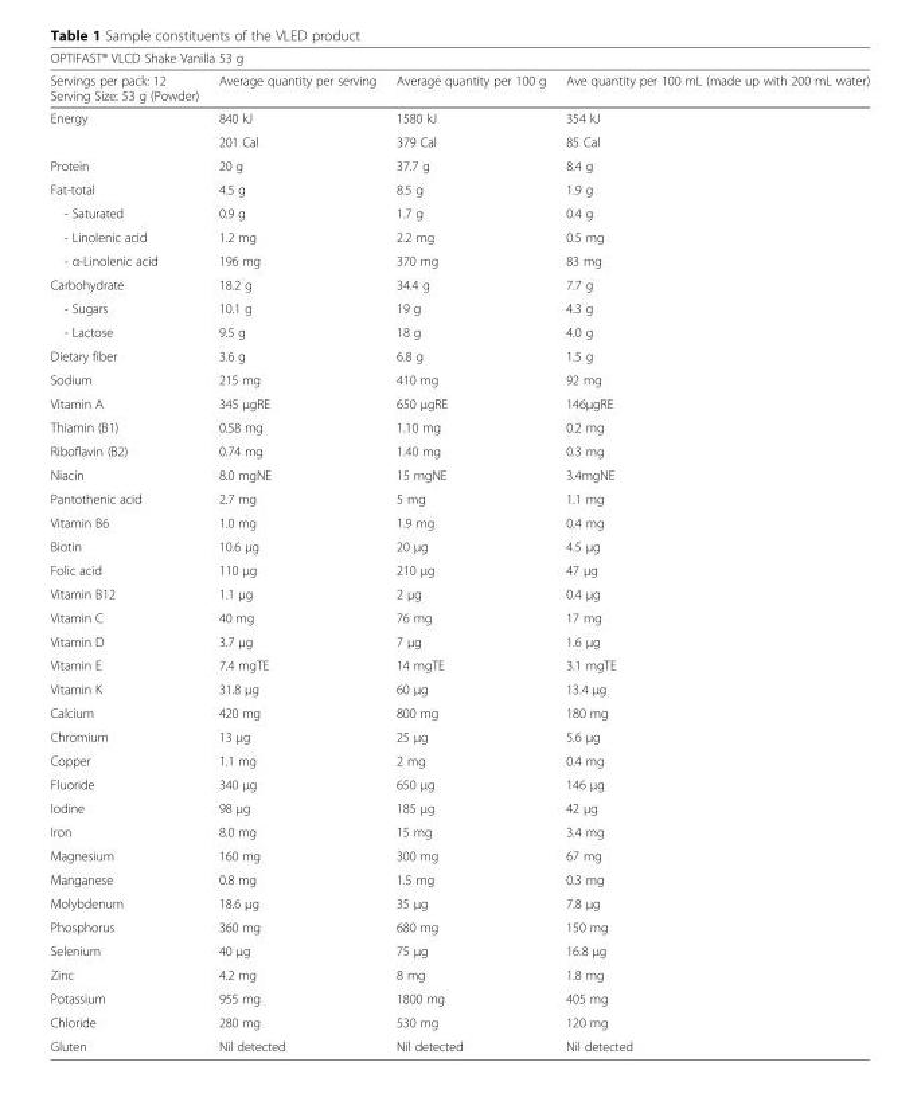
<table><thead><tr><td colspan="4">OPTIFAST® VLCD Shake Vanilla 53 g</td></tr><tr><td>Servings per pack: 12 Serving Size: 53 g (Powder)</td><td>Average quantity per serving</td><td>Average quantity per 100 g</td><td>Ave quantity per 100 mL (made up with 200 mL water)</td></tr></thead><tbody><tr><td rowspan="2">Energy</td><td>840 kJ</td><td>1580 kJ</td><td>354 kJ</td></tr><tr><td>201 Cal</td><td>379 Cal</td><td>85 Cal</td></tr><tr><td>Protein</td><td>20 g</td><td>37.7 g</td><td>8.4 g</td></tr><tr><td>Fat-total</td><td>4.5 g</td><td>8.5 g</td><td>1.9 g</td></tr><tr><td>- Saturated</td><td>0.9 g</td><td>1.7 g</td><td>0.4 g</td></tr><tr><td>- Linolenic acid</td><td>1.2 mg</td><td>2.2 mg</td><td>0.5 mg</td></tr><tr><td>- α-Linolenic acid</td><td>196 mg</td><td>370 mg</td><td>83 mg</td></tr><tr><td>Carbohydrate</td><td>18.2 g</td><td>34.4 g</td><td>7.7 g</td></tr><tr><td>- Sugars</td><td>10.1 g</td><td>19 g</td><td>4.3 g</td></tr><tr><td>- Lactose</td><td>9.5 g</td><td>18 g</td><td>4.0 g</td></tr><tr><td>Dietary fiber</td><td>3.6 g</td><td>6.8 g</td><td>1.5 g</td></tr><tr><td>Sodium</td><td>215 mg</td><td>410 mg</td><td>92 mg</td></tr><tr><td>Vitamin A</td><td>345 μgRE</td><td>650 μgRE</td><td>146μgRE</td></tr><tr><td>Thiamin (B1)</td><td>0.58 mg</td><td>1.10 mg</td><td>0.2 mg</td></tr><tr><td>Riboflavin (B2)</td><td>0.74 mg</td><td>1.40 mg</td><td>0.3 mg</td></tr><tr><td>Niacin</td><td>8.0 mgNE</td><td>15 mgNE</td><td>3.4mgNE</td></tr><tr><td>Pantothenic acid</td><td>2.7 mg</td><td>5 mg</td><td>1.1 mg</td></tr><tr><td>Vitamin B6</td><td>1.0 mg</td><td>1.9 mg</td><td>0.4 mg</td></tr><tr><td>Biotin</td><td>10.6 μg</td><td>20 μg</td><td>4.5 μg</td></tr><tr><td>Folic acid</td><td>110 μg</td><td>210 μg</td><td>47 μg</td></tr><tr><td>Vitamin B12</td><td>1.1 μg</td><td>2 μg</td><td>0.4 μg</td></tr><tr><td>Vitamin C</td><td>40 mg</td><td>76 mg</td><td>17 mg</td></tr><tr><td>Vitamin D</td><td>3.7 μg</td><td>7 μg</td><td>1.6 μg</td></tr><tr><td>Vitamin E</td><td>7.4 mgTE</td><td>14 mgTE</td><td>3.1 mgTE</td></tr><tr><td>Vitamin K</td><td>31.8 μg</td><td>60 μg</td><td>13.4 μg</td></tr><tr><td>Calcium</td><td>420 mg</td><td>800 mg</td><td>180 mg</td></tr><tr><td>Chromium</td><td>13 μg</td><td>25 μg</td><td>5.6 μg</td></tr><tr><td>Copper</td><td>1.1 mg</td><td>2 mg</td><td>0.4 mg</td></tr><tr><td>Fluoride</td><td>340 μg</td><td>650 μg</td><td>146 μg</td></tr><tr><td>Iodine</td><td>98 μg</td><td>185 μg</td><td>42 μg</td></tr><tr><td>Iron</td><td>8.0 mg</td><td>15 mg</td><td>3.4 mg</td></tr><tr><td>Magnesium</td><td>160 mg</td><td>300 mg</td><td>67 mg</td></tr><tr><td>Manganese</td><td>0.8 mg</td><td>1.5 mg</td><td>0.3 mg</td></tr><tr><td>Molybdenum</td><td>18.6 μg</td><td>35 μg</td><td>7.8 μg</td></tr><tr><td>Phosphorus</td><td>360 mg</td><td>680 mg</td><td>150 mg</td></tr><tr><td>Selenium</td><td>40 μg</td><td>75 μg</td><td>16.8 μg</td></tr><tr><td>Zinc</td><td>4.2 mg</td><td>8 mg</td><td>1.8 mg</td></tr><tr><td>Potassium</td><td>955 mg</td><td>1800 mg</td><td>405 mg</td></tr><tr><td>Chloride</td><td>280 mg</td><td>530 mg</td><td>120 mg</td></tr><tr><td>Gluten</td><td>Nil detected</td><td>Nil detected</td><td>Nil detected</td></tr></tbody></table>